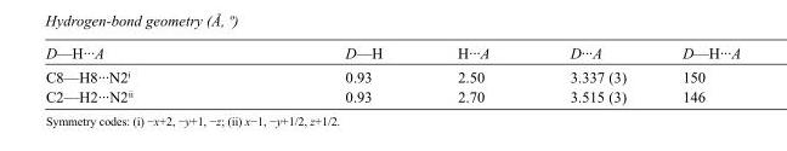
<table><tbody><tr><td>D—H···A</td><td>D—H</td><td>H···A</td><td>D···A</td><td>D—H···A</td></tr><tr><td>C8—H8···N2<sup>i</sup></td><td>0.93</td><td>2.50</td><td>3.337 (3)</td><td>150</td></tr><tr><td>C2—H2···N2<sup>ii</sup></td><td>0.93</td><td>2.70</td><td>3.515 (3)</td><td>146</td></tr></tbody></table>